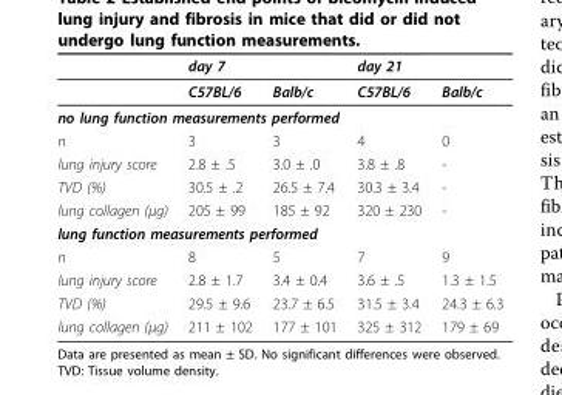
<table><thead><tr><td rowspan="2"></td><td colspan="2">day 7</td><td colspan="2">day 21</td></tr><tr><td>C57BL/6</td><td>Balb/c</td><td>C57BL/6</td><td>Balb/c</td></tr></thead><tbody><tr><td colspan="5">no lung function measurements performed</td></tr><tr><td>n</td><td>3</td><td>3</td><td>4</td><td>0</td></tr><tr><td>lung injury score</td><td>2.8 ± .5</td><td>3.0 ± .0</td><td>3.8 ± .8</td><td>-</td></tr><tr><td>TVD (%)</td><td>30.5 ± .2</td><td>26.5 ± 7.4</td><td>30.3 ± 3.4</td><td>-</td></tr><tr><td>lung collagen (μg)</td><td>205 ± 99</td><td>185 ± 92</td><td>320 ± 230</td><td>-</td></tr><tr><td colspan="5">lung function measurements performed</td></tr><tr><td>n</td><td>8</td><td>5</td><td>7</td><td>9</td></tr><tr><td>lung injury score</td><td>2.8 ± 1.7</td><td>3.4 ± 0.4</td><td>3.6 ± .5</td><td>1.3 ± 1.5</td></tr><tr><td>TVD (%)</td><td>29.5 ± 9.6</td><td>23.7 ± 6.5</td><td>31.5 ± 3.4</td><td>24.3 ± 6.3</td></tr><tr><td>lung collagen (μg)</td><td>211 ± 102</td><td>177 ± 101</td><td>325 ± 312</td><td>179 ± 69</td></tr></tbody></table>